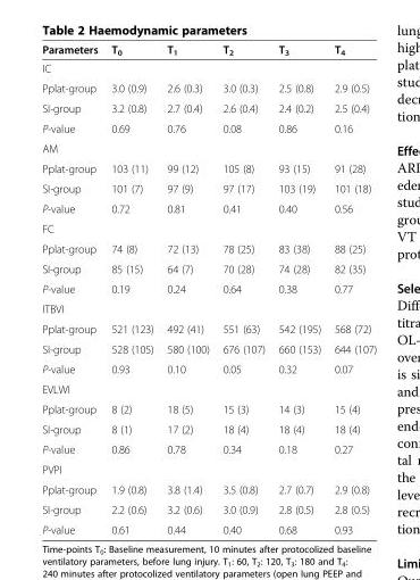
<table><thead><tr><td>Parameters</td><td>T<sub>0</sub></td><td>T<sub>1</sub></td><td>T<sub>2</sub></td><td>T<sub>3</sub></td><td>T<sub>4</sub></td></tr></thead><tbody><tr><td colspan="6">IC</td></tr><tr><td>Pplat-group</td><td>3.0 (0.9)</td><td>2.6 (0.3)</td><td>3.0 (0.3)</td><td>2.5 (0.8)</td><td>2.9 (0.5)</td></tr><tr><td>SI-group</td><td>3.2 (0.8)</td><td>2.7 (0.4)</td><td>2.6 (0.4)</td><td>2.4 (0.2)</td><td>2.5 (0.4)</td></tr><tr><td>P-value</td><td>0.69</td><td>0.76</td><td>0.08</td><td>0.86</td><td>0.16</td></tr><tr><td colspan="6">AM</td></tr><tr><td>Pplat-group</td><td>103 (11)</td><td>99 (12)</td><td>105 (8)</td><td>93 (15)</td><td>91 (28)</td></tr><tr><td>SI-group</td><td>101 (7)</td><td>97 (9)</td><td>97 (17)</td><td>103 (19)</td><td>101 (18)</td></tr><tr><td>P-value</td><td>0.72</td><td>0.81</td><td>0.41</td><td>0.40</td><td>0.56</td></tr><tr><td colspan="6">FC</td></tr><tr><td>Pplat-group</td><td>74 (8)</td><td>72 (13)</td><td>78 (25)</td><td>83 (38)</td><td>88 (25)</td></tr><tr><td>SI-group</td><td>85 (15)</td><td>64 (7)</td><td>70 (28)</td><td>74 (28)</td><td>82 (35)</td></tr><tr><td>P-value</td><td>0.19</td><td>0.24</td><td>0.64</td><td>0.38</td><td>0.77</td></tr><tr><td colspan="6">ITBVI</td></tr><tr><td>Pplat-group</td><td>521 (123)</td><td>492 (41)</td><td>551 (63)</td><td>542 (195)</td><td>568 (72)</td></tr><tr><td>SI-group</td><td>528 (105)</td><td>580 (100)</td><td>676 (107)</td><td>660 (153)</td><td>644 (107)</td></tr><tr><td>P-value</td><td>0.93</td><td>0.10</td><td>0.05</td><td>0.32</td><td>0.07</td></tr><tr><td colspan="6">EVLWI</td></tr><tr><td>Pplat-group</td><td>8 (2)</td><td>18 (5)</td><td>15 (3)</td><td>14 (3)</td><td>15 (4)</td></tr><tr><td>SI-group</td><td>8 (1)</td><td>17 (2)</td><td>18 (4)</td><td>18 (4)</td><td>18 (4)</td></tr><tr><td>P-value</td><td>0.86</td><td>0.78</td><td>0.34</td><td>0.18</td><td>0.27</td></tr><tr><td colspan="6">PVPI</td></tr><tr><td>Pplat-group</td><td>1.9 (0.8)</td><td>3.8 (1.4)</td><td>3.5 (0.8)</td><td>2.7 (0.7)</td><td>2.9 (0.8)</td></tr><tr><td>SI-group</td><td>2.2 (0.6)</td><td>3.2 (0.6)</td><td>3.0 (0.9)</td><td>2.8 (0.5)</td><td>2.8 (0.5)</td></tr><tr><td>P-value</td><td>0.61</td><td>0.44</td><td>0.40</td><td>0.68</td><td>0.93</td></tr></tbody></table>